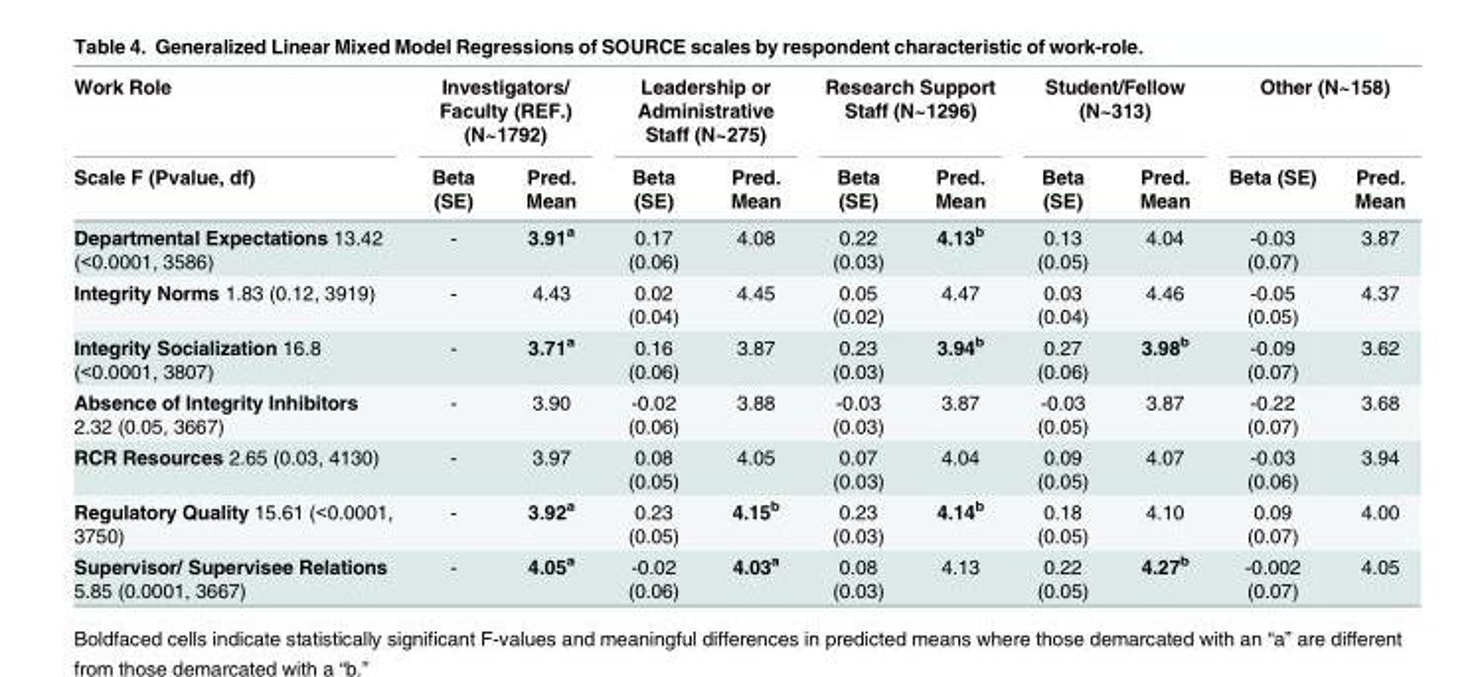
<table><thead><tr><td rowspan="2">Work Role Scale F (Pvalue, df)</td><td colspan="2">Investigators/ Faculty (REF.) (N~1792)</td><td colspan="2">Leadership or Administrative Staff (N~275)</td><td colspan="2">Research Support Staff (N~1296)</td><td colspan="2">Student/Fellow (N~313)</td><td colspan="2">Other (N~158)</td></tr><tr><td>Beta (SE)</td><td>Pred. Mean</td><td>Beta (SE)</td><td>Pred. Mean</td><td>Beta (SE)</td><td>Pred. Mean</td><td>Beta (SE)</td><td>Pred. Mean</td><td>Beta (SE)</td><td>Pred. Mean</td></tr></thead><tbody><tr><td>Departmental Expectations 13.42 (&lt;0.0001, 3586)</td><td>-</td><td>3.91<sup>a</sup></td><td>0.17 (0.06)</td><td>4.08</td><td>0.22 (0.03)</td><td>4.13<sup>b</sup></td><td>0.13 (0.05)</td><td>4.04</td><td>-0.03 (0.07)</td><td>3.87</td></tr><tr><td>Integrity Norms 1.83 (0.12, 3919)</td><td>-</td><td>4.43</td><td>0.02 (0.04)</td><td>4.45</td><td>0.05 (0.02)</td><td>4.47</td><td>0.03 (0.04)</td><td>4.46</td><td>-0.05 (0.05)</td><td>4.37</td></tr><tr><td>Integrity Socialization 16.8 (&lt;0.0001, 3807)</td><td>-</td><td>3.71<sup>a</sup></td><td>0.16 (0.06)</td><td>3.87</td><td>0.23 (0.03)</td><td>3.94<sup>b</sup></td><td>0.27 (0.06)</td><td>3.98<sup>b</sup></td><td>-0.09 (0.07)</td><td>3.62</td></tr><tr><td>Absence of Integrity Inhibitors 2.32 (0.05, 3667)</td><td>-</td><td>3.90</td><td>-0.02 (0.06)</td><td>3.88</td><td>-0.03 (0.03)</td><td>3.87</td><td>-0.03 (0.05)</td><td>3.87</td><td>-0.22 (0.07)</td><td>3.68</td></tr><tr><td>RCR Resources 2.65 (0.03, 4130)</td><td>-</td><td>3.97</td><td>0.08 (0.05)</td><td>4.05</td><td>0.07 (0.03)</td><td>4.04</td><td>0.09 (0.05)</td><td>4.07</td><td>-0.03 (0.06)</td><td>3.94</td></tr><tr><td>Regulatory Quality 15.61 (&lt;0.0001, 3750)</td><td>-</td><td>3.92<sup>a</sup></td><td>0.23 (0.05)</td><td>4.15<sup>b</sup></td><td>0.23 (0.03)</td><td>4.14<sup>b</sup></td><td>0.18 (0.05)</td><td>4.10</td><td>0.09 (0.07)</td><td>4.00</td></tr><tr><td>Supervisor/ Supervisee Relations 5.85 (0.0001, 3667)</td><td>-</td><td>4.05<sup>a</sup></td><td>-0.02 (0.06)</td><td>4.03<sup>a</sup></td><td>0.08 (0.03)</td><td>4.13</td><td>0.22 (0.05)</td><td>4.27<sup>b</sup></td><td>-0.002 (0.07)</td><td>4.05</td></tr></tbody></table>